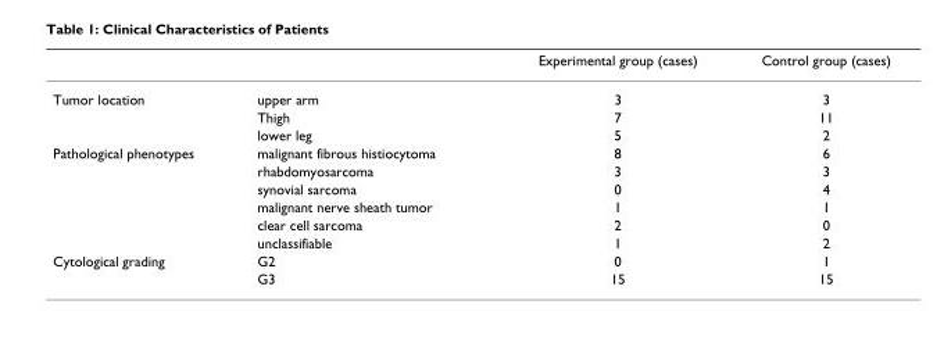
<table><thead><tr><td></td><td></td><td>Experimental group (cases)</td><td>Control group (cases)</td></tr></thead><tbody><tr><td rowspan="3">Tumor location</td><td>upper arm</td><td>3</td><td>3</td></tr><tr><td>Thigh</td><td>7</td><td>11</td></tr><tr><td>lower leg</td><td>5</td><td>2</td></tr><tr><td rowspan="6">Pathological phenotypes</td><td>malignant fibrous histiocytoma</td><td>8</td><td>6</td></tr><tr><td>rhabdomyosarcoma</td><td>3</td><td>3</td></tr><tr><td>synovial sarcoma</td><td>0</td><td>4</td></tr><tr><td>malignant nerve sheath tumor</td><td>1</td><td>1</td></tr><tr><td>clear cell sarcoma</td><td>2</td><td>0</td></tr><tr><td>unclassifiable</td><td>1</td><td>2</td></tr><tr><td rowspan="2">Cytological grading</td><td>G2</td><td>0</td><td>1</td></tr><tr><td>G3</td><td>15</td><td>15</td></tr></tbody></table>